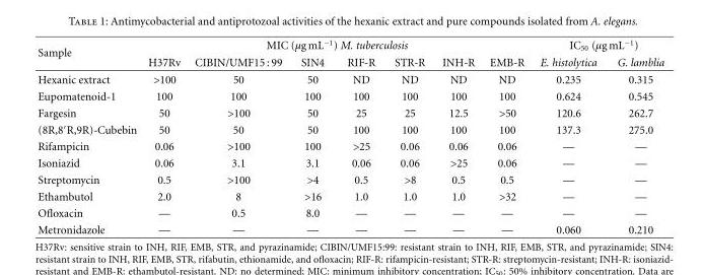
<table><thead><tr><td rowspan="2">Sample</td><td colspan="7">MIC (μg mL<sup>−1</sup>) M. tuberculosis</td><td colspan="2">IC<sub>50</sub> (μg mL<sup>−1</sup>)</td></tr><tr><td>H37Rv</td><td>CIBIN/UMF15 : 99</td><td>SIN4</td><td>RIF-R</td><td>STR-R</td><td>INH-R</td><td>EMB-R</td><td>E. histolytica</td><td>G. lamblia</td></tr></thead><tbody><tr><td>Hexanic extract</td><td>&gt;100</td><td>50</td><td>50</td><td>ND</td><td>ND</td><td>ND</td><td>ND</td><td>0.235</td><td>0.315</td></tr><tr><td>Eupomatenoid-1</td><td>100</td><td>100</td><td>100</td><td>100</td><td>100</td><td>100</td><td>100</td><td>0.624</td><td>0.545</td></tr><tr><td>Fargesin</td><td>50</td><td>&gt;100</td><td>50</td><td>25</td><td>25</td><td>12.5</td><td>&gt;50</td><td>120.6</td><td>262.7</td></tr><tr><td>(8R,8′R,9R)-Cubebin</td><td>50</td><td>50</td><td>50</td><td>100</td><td>100</td><td>100</td><td>100</td><td>137.3</td><td>275.0</td></tr><tr><td>Rifampicin</td><td>0.06</td><td>&gt;100</td><td>100</td><td>&gt;25</td><td>0.06</td><td>0.06</td><td>0.06</td><td>—</td><td>—</td></tr><tr><td>Isoniazid</td><td>0.06</td><td>3.1</td><td>3.1</td><td>0.06</td><td>0.06</td><td>&gt;25</td><td>0.06</td><td>—</td><td>—</td></tr><tr><td>Streptomycin</td><td>0.5</td><td>&gt;100</td><td>&gt;4</td><td>0.5</td><td>&gt;8</td><td>0.5</td><td>0.5</td><td>—</td><td>—</td></tr><tr><td>Ethambutol</td><td>2.0</td><td>8</td><td>&gt;16</td><td>1.0</td><td>1.0</td><td>1.0</td><td>&gt;32</td><td>—</td><td>—</td></tr><tr><td>Ofloxacin</td><td>—</td><td>0.5</td><td>8.0</td><td>—</td><td>—</td><td>—</td><td>—</td><td>—</td><td>—</td></tr><tr><td>Metronidazole</td><td>—</td><td>—</td><td>—</td><td>—</td><td>—</td><td>—</td><td>—</td><td>0.060</td><td>0.210</td></tr></tbody></table>